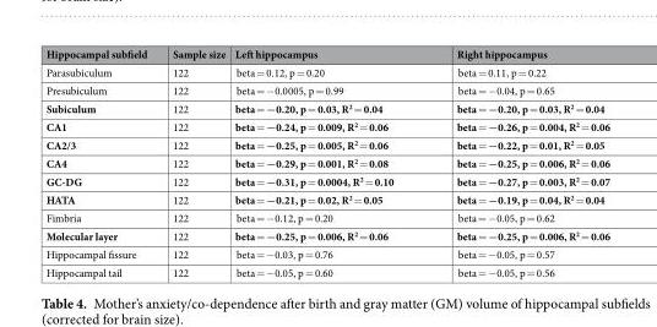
<table><thead><tr><td>Hippocampal subfield</td><td>Sample size</td><td>Left hippocampus</td><td>Right hippocampus</td></tr></thead><tbody><tr><td>Parasubiculum</td><td>122</td><td>beta = 0.12, p = 0.20</td><td>beta = 0.11, p = 0.22</td></tr><tr><td>Presubiculum</td><td>122</td><td>beta = −0.0005, p = 0.99</td><td>beta = −0.04, p = 0.65</td></tr><tr><td>Subiculum</td><td>122</td><td>beta = −0.20, p = 0.03, R<sup>2</sup> = 0.04</td><td>beta = −0.20, p = 0.03, R<sup>2</sup> = 0.04</td></tr><tr><td>CA1</td><td>122</td><td>beta = −0.24, p = 0.009, R<sup>2</sup> = 0.06</td><td>beta = −0.26, p = 0.004, R<sup>2</sup> = 0.06</td></tr><tr><td>CA2/3</td><td>122</td><td>beta = −0.25, p = 0.005, R<sup>2</sup> = 0.06</td><td>beta = −0.22, p = 0.01, R<sup>2</sup> = 0.05</td></tr><tr><td>CA4</td><td>122</td><td>beta = −0.29, p = 0.001, R<sup>2</sup> = 0.08</td><td>beta = −0.25, p = 0.006, R<sup>2</sup> = 0.06</td></tr><tr><td>GC-DG</td><td>122</td><td>beta = −0.31, p = 0.0004, R<sup>2</sup> = 0.10</td><td>beta = −0.27, p = 0.003, R<sup>2</sup> = 0.07</td></tr><tr><td>HATA</td><td>122</td><td>beta = −0.21, p = 0.02, R<sup>2</sup> = 0.05</td><td>beta = −0.19, p = 0.04, R<sup>2</sup> = 0.04</td></tr><tr><td>Fimbria</td><td>122</td><td>beta = −0.12, p = 0.20</td><td>beta = −0.05, p = 0.62</td></tr><tr><td>Molecular layer</td><td>122</td><td>beta = −0.25, p = 0.006, R<sup>2</sup> = 0.06</td><td>beta = −0.25, p = 0.006, R<sup>2</sup> = 0.06</td></tr><tr><td>Hippocampal fissure</td><td>122</td><td>beta = −0.03, p = 0.76</td><td>beta = −0.05, p = 0.57</td></tr><tr><td>Hippocampal tail</td><td>122</td><td>beta = −0.05, p = 0.60</td><td>beta = −0.05, p = 0.56</td></tr></tbody></table>